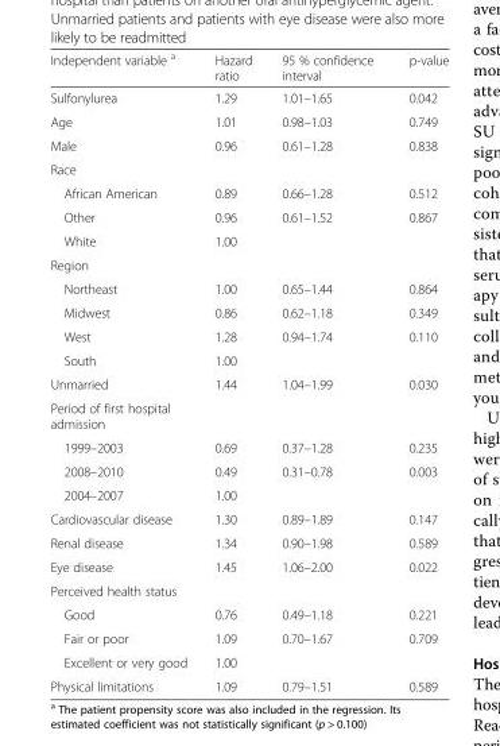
<table><thead><tr><td>Independent variable <sup>a</sup></td><td>Hazard ratio</td><td>95 % confidence interval</td><td>p-value</td></tr></thead><tbody><tr><td>Sulfonylurea</td><td>1.29</td><td>1.01–1.65</td><td>0.042</td></tr><tr><td>Age</td><td>1.01</td><td>0.98–1.03</td><td>0.749</td></tr><tr><td>Male</td><td>0.96</td><td>0.61–1.28</td><td>0.838</td></tr><tr><td colspan="4">Race</td></tr><tr><td>African American</td><td>0.89</td><td>0.66–1.28</td><td>0.512</td></tr><tr><td>Other</td><td>0.96</td><td>0.61–1.52</td><td>0.867</td></tr><tr><td>White</td><td>1.00</td><td></td><td></td></tr><tr><td colspan="4">Region</td></tr><tr><td>Northeast</td><td>1.00</td><td>0.65–1.44</td><td>0.864</td></tr><tr><td>Midwest</td><td>0.86</td><td>0.62–1.18</td><td>0.349</td></tr><tr><td>West</td><td>1.28</td><td>0.94–1.74</td><td>0.110</td></tr><tr><td>South</td><td>1.00</td><td></td><td></td></tr><tr><td>Unmarried</td><td>1.44</td><td>1.04–1.99</td><td>0.030</td></tr><tr><td colspan="4">Period of first hospital admission</td></tr><tr><td>1999–2003</td><td>0.69</td><td>0.37–1.28</td><td>0.235</td></tr><tr><td>2008–2010</td><td>0.49</td><td>0.31–0.78</td><td>0.003</td></tr><tr><td>2004–2007</td><td>1.00</td><td></td><td></td></tr><tr><td>Cardiovascular disease</td><td>1.30</td><td>0.89–1.89</td><td>0.147</td></tr><tr><td>Renal disease</td><td>1.34</td><td>0.90–1.98</td><td>0.589</td></tr><tr><td>Eye disease</td><td>1.45</td><td>1.06–2.00</td><td>0.022</td></tr><tr><td colspan="4">Perceived health status</td></tr><tr><td>Good</td><td>0.76</td><td>0.49–1.18</td><td>0.221</td></tr><tr><td>Fair or poor</td><td>1.09</td><td>0.70–1.67</td><td>0.709</td></tr><tr><td>Excellent or very good</td><td>1.00</td><td></td><td></td></tr><tr><td>Physical limitations</td><td>1.09</td><td>0.79–1.51</td><td>0.589</td></tr></tbody></table>